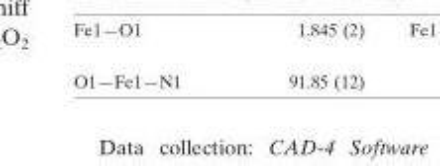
<table><tbody><tr><td>O1—Fe1—N1</td><td>91.85 (12)</td></tr></tbody></table>